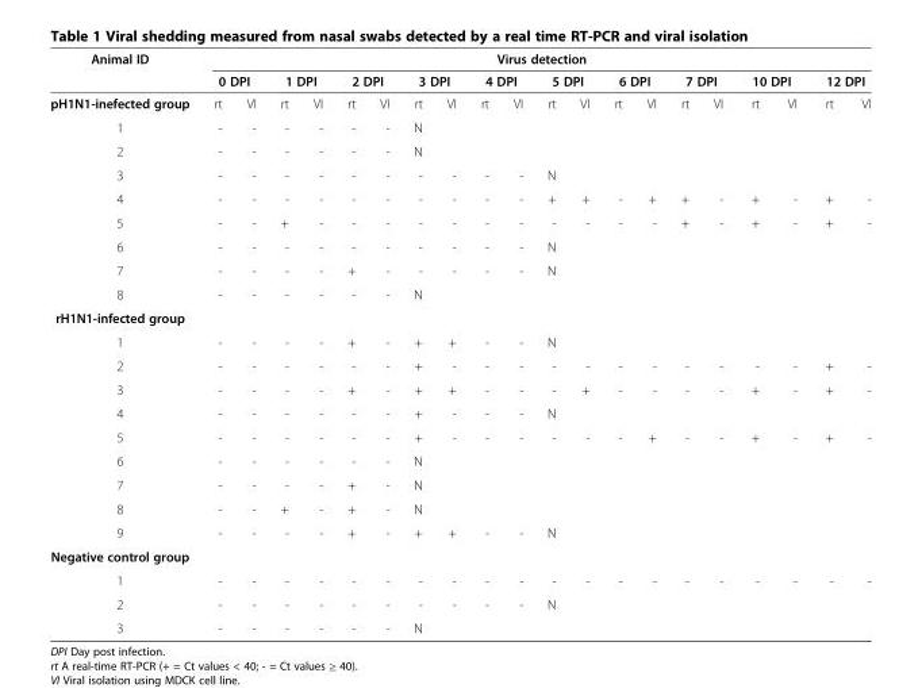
<table><thead><tr><td rowspan="3">Animal ID pH1N1-inefected group</td><td colspan="20">Virus detection</td></tr><tr><td colspan="2">0 DPI</td><td colspan="2">1 DPI</td><td colspan="2">2 DPI</td><td colspan="2">3 DPI</td><td colspan="2">4 DPI</td><td colspan="2">5 DPI</td><td colspan="2">6 DPI</td><td colspan="2">7 DPI</td><td colspan="2">10 DPI</td><td colspan="2">12 DPI</td></tr><tr><td>rt</td><td>VI</td><td>rt</td><td>VI</td><td>rt</td><td>VI</td><td>rt</td><td>VI</td><td>rt</td><td>VI</td><td>rt</td><td>VI</td><td>rt</td><td>VI</td><td>rt</td><td>VI</td><td>rt</td><td>VI</td><td>rt</td><td>VI</td></tr></thead><tbody><tr><td>1</td><td>-</td><td>-</td><td>-</td><td>-</td><td>-</td><td>-</td><td>N</td><td></td><td></td><td></td><td></td><td></td><td></td><td></td><td></td><td></td><td></td><td></td><td></td><td></td></tr><tr><td>2</td><td>-</td><td>-</td><td>-</td><td>-</td><td>-</td><td>-</td><td>N</td><td></td><td></td><td></td><td></td><td></td><td></td><td></td><td></td><td></td><td></td><td></td><td></td><td></td></tr><tr><td>3</td><td>-</td><td>-</td><td>-</td><td>-</td><td>-</td><td>-</td><td>-</td><td>-</td><td>-</td><td>-</td><td>N</td><td></td><td></td><td></td><td></td><td></td><td></td><td></td><td></td><td></td></tr><tr><td>4</td><td>-</td><td>-</td><td>-</td><td>-</td><td>-</td><td>-</td><td>-</td><td>-</td><td>-</td><td>-</td><td>+</td><td>+</td><td>-</td><td>+</td><td>+</td><td>-</td><td>+</td><td>-</td><td>+</td><td>-</td></tr><tr><td>5</td><td>-</td><td>-</td><td>+</td><td>-</td><td>-</td><td>-</td><td>-</td><td>-</td><td>-</td><td>-</td><td>-</td><td>-</td><td>-</td><td>-</td><td>+</td><td>-</td><td>+</td><td>-</td><td>+</td><td>-</td></tr><tr><td>6</td><td>-</td><td>-</td><td>-</td><td>-</td><td>-</td><td>-</td><td>-</td><td>-</td><td>-</td><td>-</td><td>N</td><td></td><td></td><td></td><td></td><td></td><td></td><td></td><td></td><td></td></tr><tr><td>7</td><td>-</td><td>-</td><td>-</td><td>-</td><td>+</td><td>-</td><td>-</td><td>-</td><td>-</td><td>-</td><td>N</td><td></td><td></td><td></td><td></td><td></td><td></td><td></td><td></td><td></td></tr><tr><td>8</td><td>-</td><td>-</td><td>-</td><td>-</td><td>-</td><td>-</td><td>N</td><td></td><td></td><td></td><td></td><td></td><td></td><td></td><td></td><td></td><td></td><td></td><td></td><td></td></tr><tr><td colspan="21">rH1N1-infected group</td></tr><tr><td>1</td><td>-</td><td>-</td><td>-</td><td>-</td><td>+</td><td>-</td><td>+</td><td>+</td><td>-</td><td>-</td><td>N</td><td></td><td></td><td></td><td></td><td></td><td></td><td></td><td></td><td></td></tr><tr><td>2</td><td>-</td><td>-</td><td>-</td><td>-</td><td>-</td><td>-</td><td>+</td><td>-</td><td>-</td><td>-</td><td>-</td><td>-</td><td>-</td><td>-</td><td>-</td><td>-</td><td>-</td><td>-</td><td>+</td><td>-</td></tr><tr><td>3</td><td>-</td><td>-</td><td>-</td><td>-</td><td>+</td><td>-</td><td>+</td><td>+</td><td>-</td><td>-</td><td>-</td><td>+</td><td>-</td><td>-</td><td>-</td><td>-</td><td>+</td><td>-</td><td>+</td><td>-</td></tr><tr><td>4</td><td>-</td><td>-</td><td>-</td><td>-</td><td>-</td><td>-</td><td>+</td><td>-</td><td>-</td><td>-</td><td>N</td><td></td><td></td><td></td><td></td><td></td><td></td><td></td><td></td><td></td></tr><tr><td>5</td><td>-</td><td>-</td><td>-</td><td>-</td><td>-</td><td>-</td><td>+</td><td>-</td><td>-</td><td>-</td><td>-</td><td>-</td><td>-</td><td>+</td><td>-</td><td>-</td><td>+</td><td>-</td><td>+</td><td>-</td></tr><tr><td>6</td><td>-</td><td>-</td><td>-</td><td>-</td><td>-</td><td>-</td><td>N</td><td></td><td></td><td></td><td></td><td></td><td></td><td></td><td></td><td></td><td></td><td></td><td></td><td></td></tr><tr><td>7</td><td>-</td><td>-</td><td>-</td><td>-</td><td>+</td><td>-</td><td>N</td><td></td><td></td><td></td><td></td><td></td><td></td><td></td><td></td><td></td><td></td><td></td><td></td><td></td></tr><tr><td>8</td><td>-</td><td>-</td><td>+</td><td>-</td><td>+</td><td>-</td><td>N</td><td></td><td></td><td></td><td></td><td></td><td></td><td></td><td></td><td></td><td></td><td></td><td></td><td></td></tr><tr><td>9</td><td>-</td><td>-</td><td>-</td><td>-</td><td>+</td><td>-</td><td>+</td><td>+</td><td>-</td><td>-</td><td>N</td><td></td><td></td><td></td><td></td><td></td><td></td><td></td><td></td><td></td></tr><tr><td colspan="21">Negative control group</td></tr><tr><td>1</td><td>-</td><td>-</td><td>-</td><td>-</td><td>-</td><td>-</td><td>-</td><td>-</td><td>-</td><td>-</td><td>-</td><td>-</td><td>-</td><td>-</td><td>-</td><td>-</td><td>-</td><td>-</td><td>-</td><td>-</td></tr><tr><td>2</td><td>-</td><td>-</td><td>-</td><td>-</td><td>-</td><td>-</td><td>-</td><td>-</td><td>-</td><td>-</td><td>N</td><td></td><td></td><td></td><td></td><td></td><td></td><td></td><td></td><td></td></tr><tr><td>3</td><td>-</td><td>-</td><td>-</td><td>-</td><td>-</td><td>-</td><td>N</td><td></td><td></td><td></td><td></td><td></td><td></td><td></td><td></td><td></td><td></td><td></td><td></td><td></td></tr></tbody></table>